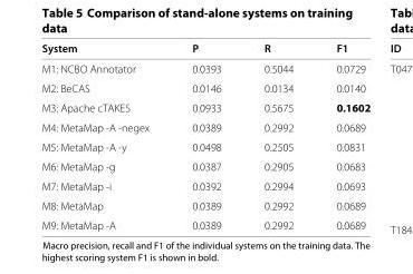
<table><thead><tr><td>System</td><td>P</td><td>R</td><td>F1</td></tr></thead><tbody><tr><td>M1: NCBO Annotator</td><td>0.0393</td><td>0.5044</td><td>0.0729</td></tr><tr><td>M2: BeCAS</td><td>0.0146</td><td>0.0134</td><td>0.0140</td></tr><tr><td>M3: Apache cTAKES</td><td>0.0933</td><td>0.5675</td><td>0.1602</td></tr><tr><td>M4: MetaMap -A -negex</td><td>0.0389</td><td>0.2992</td><td>0.0689</td></tr><tr><td>M5: MetaMap -A -y</td><td>0.0498</td><td>0.2505</td><td>0.0831</td></tr><tr><td>M6: MetaMap -g</td><td>0.0387</td><td>0.2905</td><td>0.0683</td></tr><tr><td>M7: MetaMap -i</td><td>0.0392</td><td>0.2994</td><td>0.0693</td></tr><tr><td>M8: MetaMap</td><td>0.0389</td><td>0.2992</td><td>0.0689</td></tr><tr><td>M9: MetaMap -A</td><td>0.0389</td><td>0.2992</td><td>0.0689</td></tr></tbody></table>